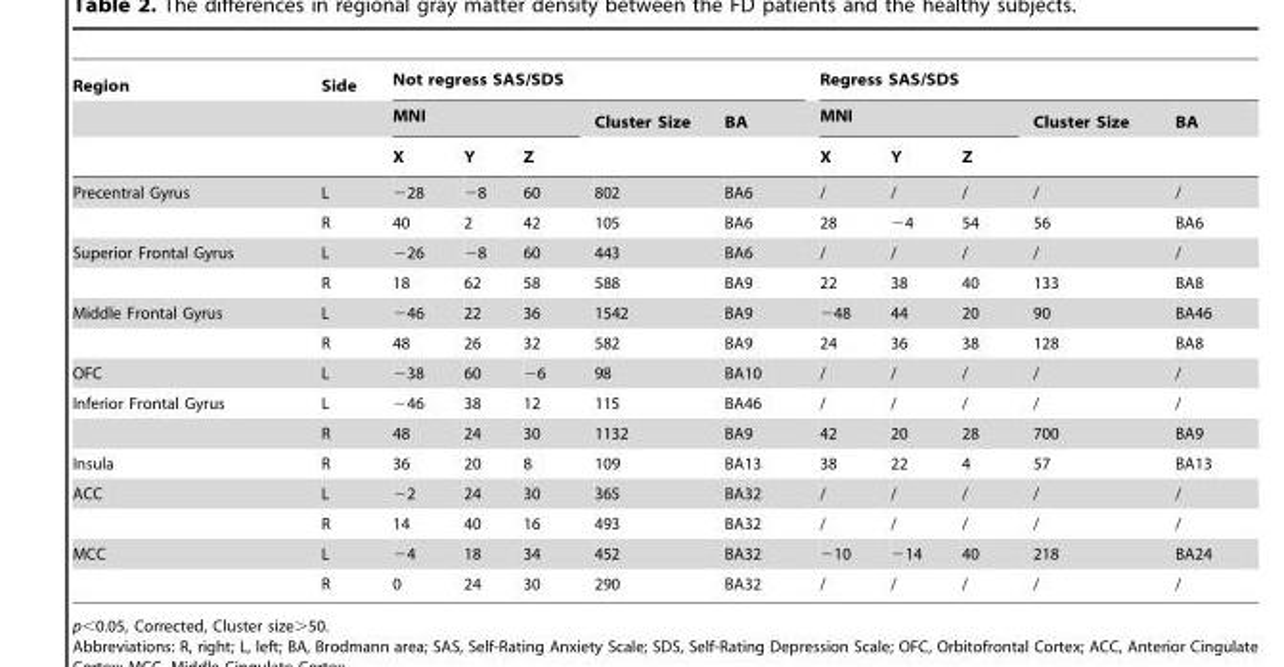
<table><thead><tr><td rowspan="3">Region</td><td rowspan="3">Side</td><td colspan="5">Not regress SAS/SDS</td><td colspan="5">Regress SAS/SDS</td></tr><tr><td colspan="3">MNI</td><td rowspan="2">Cluster Size</td><td rowspan="2">BA</td><td colspan="3">MNI</td><td rowspan="2">Cluster Size</td><td rowspan="2">BA</td></tr><tr><td>X</td><td>Y</td><td>Z</td><td>X</td><td>Y</td><td>Z</td></tr></thead><tbody><tr><td rowspan="2">Precentral Gyrus</td><td>L</td><td>−28</td><td>−8</td><td>60</td><td>802</td><td>BA6</td><td>/</td><td>/</td><td>/</td><td>/</td><td>/</td></tr><tr><td>R</td><td>40</td><td>2</td><td>42</td><td>105</td><td>BA6</td><td>28</td><td>−4</td><td>54</td><td>56</td><td>BA6</td></tr><tr><td rowspan="2">Superior Frontal Gyrus</td><td>L</td><td>−26</td><td>−8</td><td>60</td><td>443</td><td>BA6</td><td>/</td><td>/</td><td>/</td><td>/</td><td>/</td></tr><tr><td>R</td><td>18</td><td>62</td><td>58</td><td>588</td><td>BA9</td><td>22</td><td>38</td><td>40</td><td>133</td><td>BA8</td></tr><tr><td rowspan="2">Middle Frontal Gyrus</td><td>L</td><td>−46</td><td>22</td><td>36</td><td>1542</td><td>BA9</td><td>−48</td><td>44</td><td>20</td><td>90</td><td>BA46</td></tr><tr><td>R</td><td>48</td><td>26</td><td>32</td><td>582</td><td>BA9</td><td>24</td><td>36</td><td>38</td><td>128</td><td>BA8</td></tr><tr><td>OFC</td><td>L</td><td>−38</td><td>60</td><td>−6</td><td>98</td><td>BA10</td><td>/</td><td>/</td><td>/</td><td>/</td><td>/</td></tr><tr><td rowspan="2">Inferior Frontal Gyrus</td><td>L</td><td>−46</td><td>38</td><td>12</td><td>115</td><td>BA46</td><td>/</td><td>/</td><td>/</td><td>/</td><td>/</td></tr><tr><td>R</td><td>48</td><td>24</td><td>30</td><td>1132</td><td>BA9</td><td>42</td><td>20</td><td>28</td><td>700</td><td>BA9</td></tr><tr><td>Insula</td><td>R</td><td>36</td><td>20</td><td>8</td><td>109</td><td>BA13</td><td>38</td><td>22</td><td>4</td><td>57</td><td>BA13</td></tr><tr><td rowspan="2">ACC</td><td>L</td><td>−2</td><td>24</td><td>30</td><td>365</td><td>BA32</td><td>/</td><td>/</td><td>/</td><td>/</td><td>/</td></tr><tr><td>R</td><td>14</td><td>40</td><td>16</td><td>493</td><td>BA32</td><td>/</td><td>/</td><td>/</td><td>/</td><td>/</td></tr><tr><td rowspan="2">MCC</td><td>L</td><td>−4</td><td>18</td><td>34</td><td>452</td><td>BA32</td><td>−10</td><td>−14</td><td>40</td><td>218</td><td>BA24</td></tr><tr><td>R</td><td>0</td><td>24</td><td>30</td><td>290</td><td>BA32</td><td>/</td><td>/</td><td>/</td><td>/</td><td>/</td></tr></tbody></table>